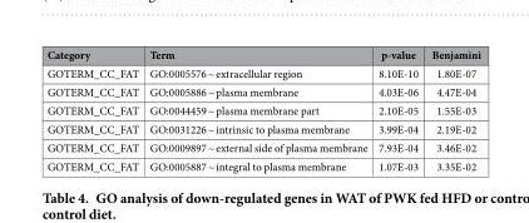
<table><thead><tr><td>Category</td><td>Term</td><td>p-value</td><td>Benjamini</td></tr></thead><tbody><tr><td>GOTERM_CC_FAT</td><td>GO:0005576 ~ extracellular region</td><td>8.10E-10</td><td>1.80E-07</td></tr><tr><td>GOTERM_CC_FAT</td><td>GO:0005886 ~ plasma membrane</td><td>4.03E-06</td><td>4.47E-04</td></tr><tr><td>GOTERM_CC_FAT</td><td>GO:0044459 ~ plasma membrane part</td><td>2.10E-05</td><td>1.55E-03</td></tr><tr><td>GOTERM_CC_FAT</td><td>GO:0031226 ~ intrinsic to plasma membrane</td><td>3.99E-04</td><td>2.19E-02</td></tr><tr><td>GOTERM_CC_FAT</td><td>GO:0009897 ~ external side of plasma membrane</td><td>7.93E-04</td><td>3.46E-02</td></tr><tr><td>GOTERM_CC_FAT</td><td>GO:0005887 ~ integral to plasma membrane</td><td>1.07E-03</td><td>3.35E-02</td></tr></tbody></table>